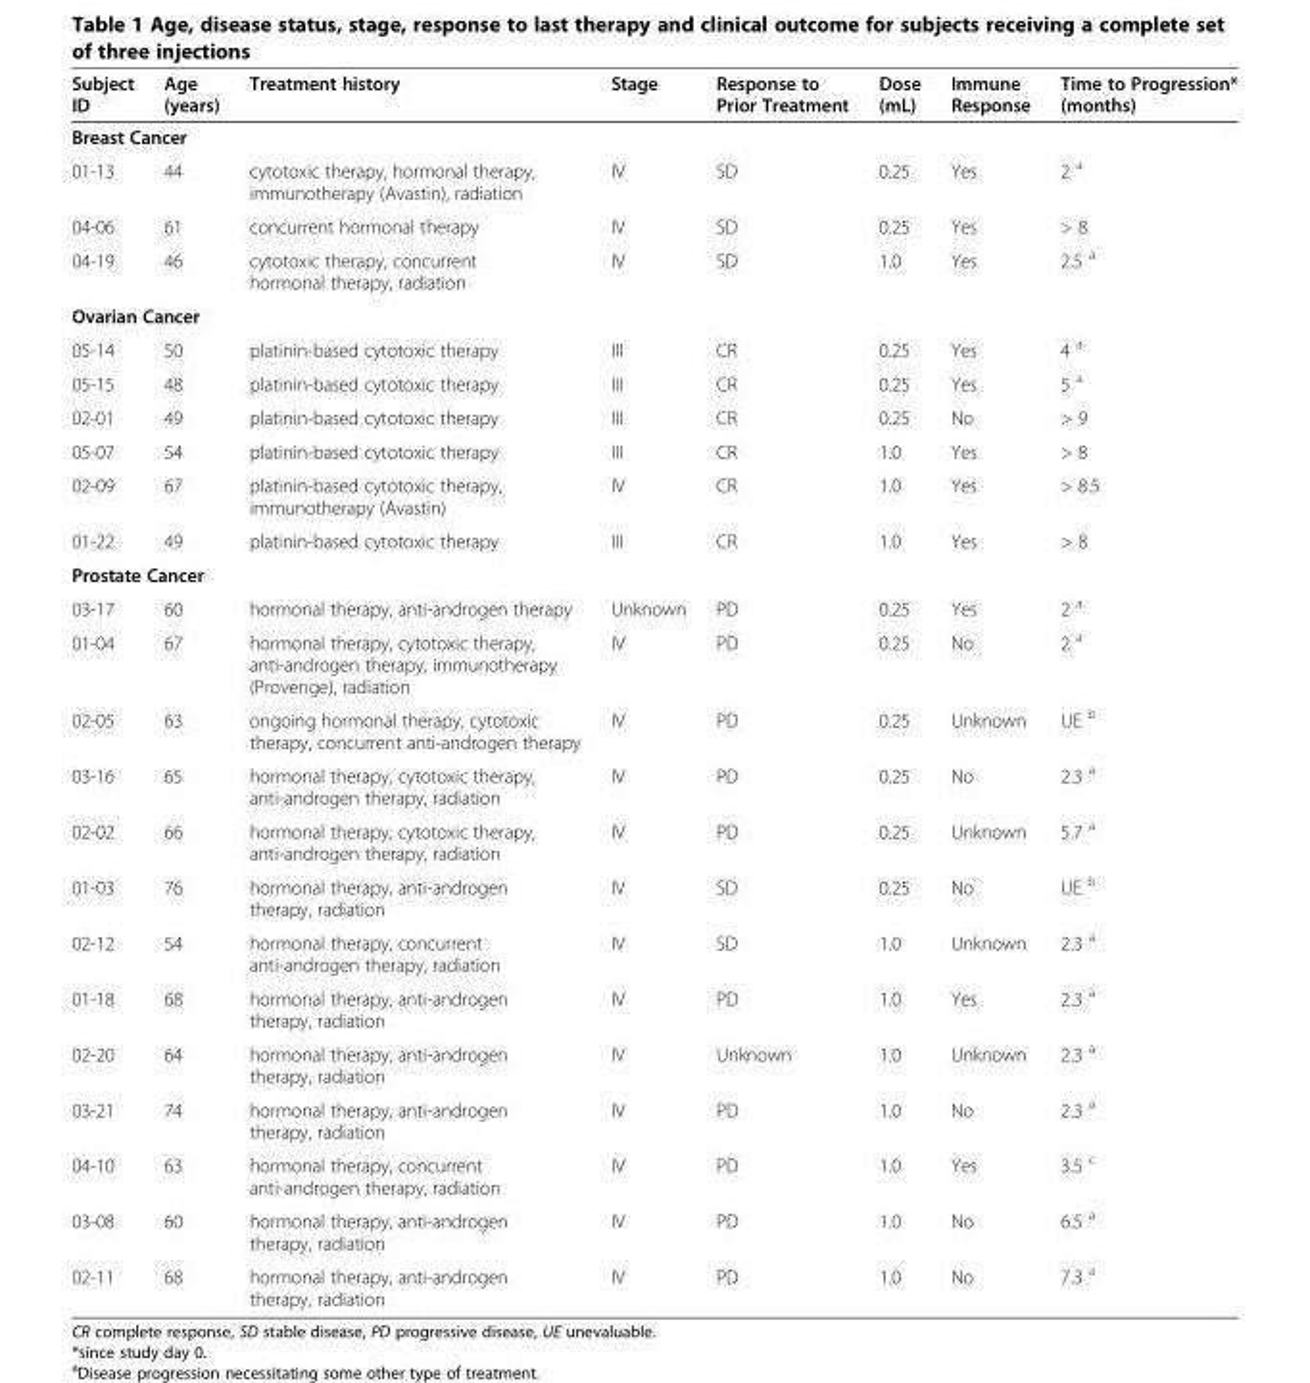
<table><thead><tr><td>Subject ID</td><td>Age (years)</td><td>Treatment history</td><td>Stage</td><td>Response to Prior Treatment</td><td>Dose (mL)</td><td>Immune Response</td><td>Time to Progression* (months)</td></tr></thead><tbody><tr><td colspan="8">Breast Cancer</td></tr><tr><td>01-13</td><td>44</td><td>cytotoxic therapy, hormonal therapy, immunotherapy (Avastin), radiation</td><td>IV</td><td>SD</td><td>0.25</td><td>Yes</td><td>2 <sup>a</sup></td></tr><tr><td>04-06</td><td>61</td><td>concurrent hormonal therapy</td><td>IV</td><td>SD</td><td>0.25</td><td>Yes</td><td>&gt; 8</td></tr><tr><td>04-19</td><td>46</td><td>cytotoxic therapy, concurrent hormonal therapy, radiation</td><td>IV</td><td>SD</td><td>1.0</td><td>Yes</td><td>2.5 <sup>a</sup></td></tr><tr><td colspan="8">Ovarian Cancer</td></tr><tr><td>05-14</td><td>50</td><td>platinin-based cytotoxic therapy</td><td>III</td><td>CR</td><td>0.25</td><td>Yes</td><td>4 <sup>a</sup></td></tr><tr><td>05-15</td><td>48</td><td>platinin-based cytotoxic therapy</td><td>III</td><td>CR</td><td>0.25</td><td>Yes</td><td>5 <sup>a</sup></td></tr><tr><td>02-01</td><td>49</td><td>platinin-based cytotoxic therapy</td><td>III</td><td>CR</td><td>0.25</td><td>No</td><td>&gt; 9</td></tr><tr><td>05-07</td><td>54</td><td>platinin-based cytotoxic therapy</td><td>III</td><td>CR</td><td>1.0</td><td>Yes</td><td>&gt; 8</td></tr><tr><td>02-09</td><td>67</td><td>platinin-based cytotoxic therapy, immunotherapy (Avastin)</td><td>IV</td><td>CR</td><td>1.0</td><td>Yes</td><td>&gt; 8.5</td></tr><tr><td>01-22</td><td>49</td><td>platinin-based cytotoxic therapy</td><td>III</td><td>CR</td><td>1.0</td><td>Yes</td><td>&gt; 8</td></tr><tr><td colspan="8">Prostate Cancer</td></tr><tr><td>03-17</td><td>60</td><td>hormonal therapy, anti-androgen therapy</td><td>Unknown</td><td>PD</td><td>0.25</td><td>Yes</td><td>2 <sup>a</sup></td></tr><tr><td>01-04</td><td>67</td><td>hormonal therapy, cytotoxic therapy, anti-androgen therapy, immunotherapy (Provenge), radiation</td><td>IV</td><td>PD</td><td>0.25</td><td>No</td><td>2 <sup>a</sup></td></tr><tr><td>02-05</td><td>63</td><td>ongoing hormonal therapy, cytotoxic therapy, concurrent anti-androgen therapy</td><td>IV</td><td>PD</td><td>0.25</td><td>Unknown</td><td>UE <sup>b</sup></td></tr><tr><td>03-16</td><td>65</td><td>hormonal therapy, cytotoxic therapy, anti-androgen therapy, radiation</td><td>IV</td><td>PD</td><td>0.25</td><td>No</td><td>2.3 <sup>a</sup></td></tr><tr><td>02-02</td><td>66</td><td>hormonal therapy, cytotoxic therapy, anti-androgen therapy, radiation</td><td>IV</td><td>PD</td><td>0.25</td><td>Unknown</td><td>5.7 <sup>a</sup></td></tr><tr><td>01-03</td><td>76</td><td>hormonal therapy, anti-androgen therapy, radiation</td><td>IV</td><td>SD</td><td>0.25</td><td>No</td><td>UE <sup>b</sup></td></tr><tr><td>02-12</td><td>54</td><td>hormonal therapy, concurrent anti-androgen therapy, radiation</td><td>IV</td><td>SD</td><td>1.0</td><td>Unknown</td><td>2.3 <sup>a</sup></td></tr><tr><td>01-18</td><td>68</td><td>hormonal therapy, anti-androgen therapy, radiation</td><td>IV</td><td>PD</td><td>1.0</td><td>Yes</td><td>2.3 <sup>a</sup></td></tr><tr><td>02-20</td><td>64</td><td>hormonal therapy, anti-androgen therapy, radiation</td><td>IV</td><td>Unknown</td><td>1.0</td><td>Unknown</td><td>2.3 <sup>a</sup></td></tr><tr><td>03-21</td><td>74</td><td>hormonal therapy, anti-androgen therapy, radiation</td><td>IV</td><td>PD</td><td>1.0</td><td>No</td><td>2.3 <sup>a</sup></td></tr><tr><td>04-10</td><td>63</td><td>hormonal therapy, concurrent anti-androgen therapy, radiation</td><td>IV</td><td>PD</td><td>1.0</td><td>Yes</td><td>3.5 <sup>c</sup></td></tr><tr><td>03-08</td><td>60</td><td>hormonal therapy, anti-androgen therapy, radiation</td><td>IV</td><td>PD</td><td>1.0</td><td>No</td><td>6.5 <sup>a</sup></td></tr><tr><td>02-11</td><td>68</td><td>hormonal therapy, anti-androgen therapy, radiation</td><td>IV</td><td>PD</td><td>1.0</td><td>No</td><td>7.3 <sup>a</sup></td></tr></tbody></table>